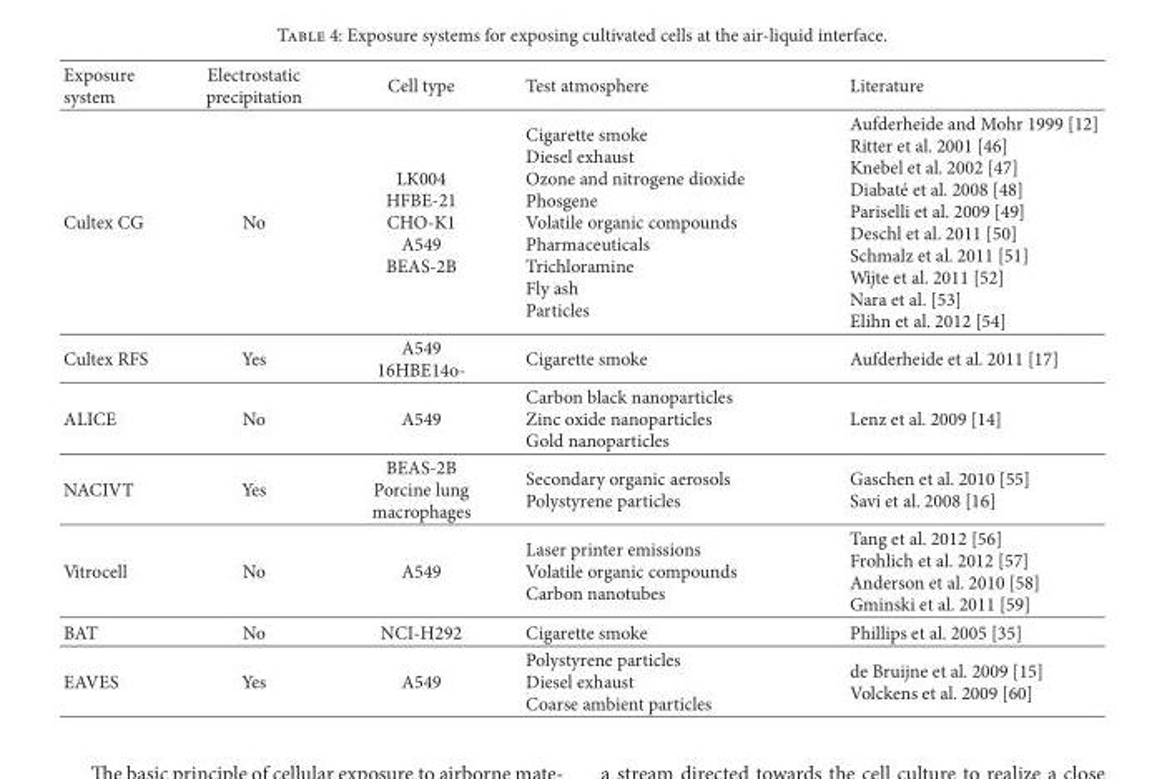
<table><thead><tr><td>Exposure system</td><td>Electrostatic precipitation</td><td>Cell type</td><td>Test atmosphere</td><td>Literature</td></tr></thead><tbody><tr><td>Cultex CG</td><td>No</td><td>LK004 HFBE-21 CHO-K1 A549 BEAS-2B</td><td>Cigarette smoke Diesel exhaust Ozone and nitrogene dioxide Phosgene Volatile organic compounds Pharmaceuticals Trichloramine Fly ash Particles</td><td>Aufderheide and Mohr 1999 [12] Ritter et al. 2001 [46] Knebel et al. 2002 [47] Diabaté et al. 2008 [48] Pariselli et al. 2009 [49] Deschl et al. 2011 [50] Schmalz et al. 2011 [51] Wijte et al. 2011 [52] Nara et al. [53] Elihn et al. 2012 [54]</td></tr><tr><td>Cultex RFS</td><td>Yes</td><td>A549 16HBE14o-</td><td>Cigarette smoke</td><td>Aufderheide et al. 2011 [17]</td></tr><tr><td>ALICE</td><td>No</td><td>A549</td><td>Carbon black nanoparticles Zinc oxide nanoparticles Gold nanoparticles</td><td>Lenz et al. 2009 [14]</td></tr><tr><td>NACIVT</td><td>Yes</td><td>BEAS-2B Porcine lung macrophages</td><td>Secondary organic aerosols Polystyrene particles</td><td>Gaschen et al. 2010 [55] Savi et al. 2008 [16]</td></tr><tr><td>Vitrocell</td><td>No</td><td>A549</td><td>Laser printer emissions Volatile organic compounds Carbon nanotubes</td><td>Tang et al. 2012 [56] Frohlich et al. 2012 [57] Anderson et al. 2010 [58] Gminski et al. 2011 [59]</td></tr><tr><td>BAT</td><td>No</td><td>NCI-H292</td><td>Cigarette smoke</td><td>Phillips et al. 2005 [35]</td></tr><tr><td>EAVES</td><td>Yes</td><td>A549</td><td>Polystyrene particles Diesel exhaust Coarse ambient particles</td><td>de Bruijne et al. 2009 [15] Volckens et al. 2009 [60]</td></tr></tbody></table>